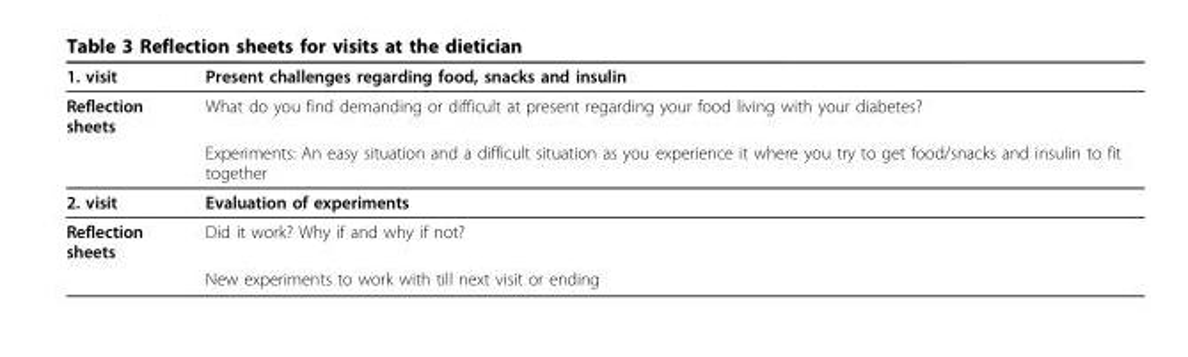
<table><thead><tr><td>1. visit</td><td>Present challenges regarding food, snacks and insulin</td></tr></thead><tbody><tr><td rowspan="2">Reflection sheets</td><td>What do you find demanding or difficult at present regarding your food living with your diabetes?</td></tr><tr><td>Experiments: An easy situation and a difficult situation as you experience it where you try to get food/snacks and insulin to fit together</td></tr><tr><td>2. visit</td><td>Evaluation of experiments</td></tr><tr><td rowspan="2">Reflection sheets</td><td>Did it work? Why if and why if not?</td></tr><tr><td>New experiments to work with till next visit or ending</td></tr></tbody></table>